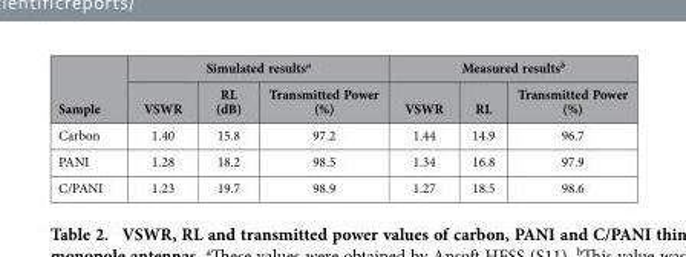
<table><thead><tr><td rowspan="2">Sample</td><td colspan="3">Simulated results<sup>a</sup></td><td colspan="3">Measured results<sup>b</sup></td></tr><tr><td>VSWR</td><td>RL (dB)</td><td>Transmitted Power (%)</td><td>VSWR</td><td>RL</td><td>Transmitted Power (%)</td></tr></thead><tbody><tr><td>Carbon</td><td>1.40</td><td>15.8</td><td>97.2</td><td>1.44</td><td>14.9</td><td>96.7</td></tr><tr><td>PANI</td><td>1.28</td><td>18.2</td><td>98.5</td><td>1.34</td><td>16.8</td><td>97.9</td></tr><tr><td>C/PANI</td><td>1.23</td><td>19.7</td><td>98.9</td><td>1.27</td><td>18.5</td><td>98.6</td></tr></tbody></table>